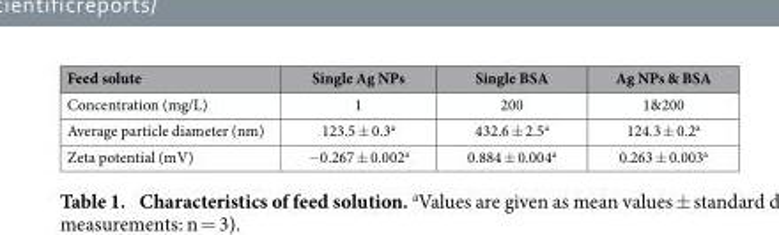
<table><thead><tr><td>Feed solute</td><td>Single Ag NPs</td><td>Single BSA</td><td>Ag NPs &amp; BSA</td></tr></thead><tbody><tr><td>Concentration (mg/L)</td><td>1</td><td>200</td><td>1&amp;200</td></tr><tr><td>Average particle diameter (nm)</td><td>123.5 ± 0.3<sup>a</sup></td><td>432.6 ± 2.5<sup>a</sup></td><td>124.3 ± 0.2<sup>a</sup></td></tr><tr><td>Zeta potential (mV)</td><td>− 0.267 ± 0.002<sup>a</sup></td><td>0.884 ± 0.004<sup>a</sup></td><td>0.263 ± 0.003<sup>a</sup></td></tr></tbody></table>